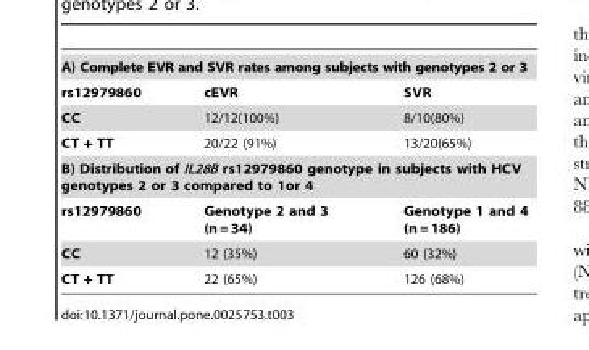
<table><tbody><tr><td colspan="3">A) Complete EVR and SVR rates among subjects with genotypes 2 or 3</td></tr><tr><td>rs12979860</td><td>cEVR</td><td>SVR</td></tr><tr><td>CC</td><td>12/12(100%)</td><td>8/10(80%)</td></tr><tr><td>CT + TT</td><td>20/22 (91%)</td><td>13/20(65%)</td></tr><tr><td colspan="3">B) Distribution of IL28B rs12979860 genotype in subjects with HCV genotypes 2 or 3 compared to 1or 4</td></tr><tr><td>rs12979860</td><td>Genotype 2 and 3 (n = 34)</td><td>Genotype 1 and 4 (n = 186)</td></tr><tr><td>CC</td><td>12 (35%)</td><td>60 (32%)</td></tr><tr><td>CT + TT</td><td>22 (65%)</td><td>126 (68%)</td></tr></tbody></table>